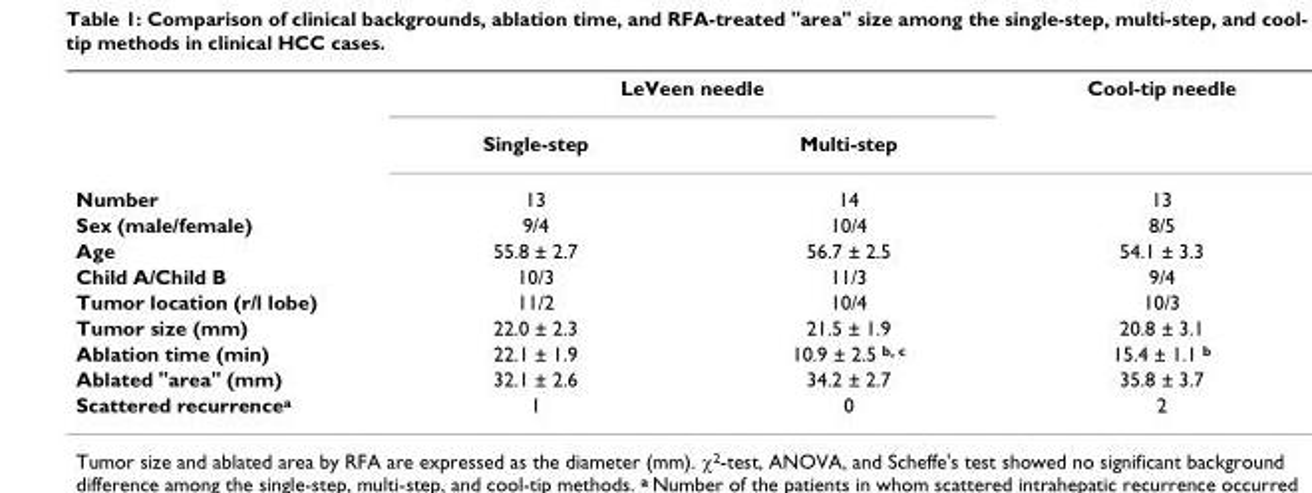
<table><thead><tr><td rowspan="2"></td><td colspan="2">LeVeen needle</td><td rowspan="2">Cool-tip needle</td></tr><tr><td>Single-step</td><td>Multi-step</td></tr></thead><tbody><tr><td>Number</td><td>13</td><td>14</td><td>13</td></tr><tr><td>Sex (male/female)</td><td>9/4</td><td>10/4</td><td>8/5</td></tr><tr><td>Age</td><td>55.8 ± 2.7</td><td>56.7 ± 2.5</td><td>54.1 ± 3.3</td></tr><tr><td>Child A/Child B</td><td>10/3</td><td>11/3</td><td>9/4</td></tr><tr><td>Tumor location (r/l lobe)</td><td>11/2</td><td>10/4</td><td>10/3</td></tr><tr><td>Tumor size (mm)</td><td>22.0 ± 2.3</td><td>21.5 ± 1.9</td><td>20.8 ± 3.1</td></tr><tr><td>Ablation time (min)</td><td>22.1 ± 1.9</td><td>10.9 ± 2.5 <sup>b, c</sup></td><td>15.4 ± 1.1 <sup>b</sup></td></tr><tr><td>Ablated &quot;area&quot; (mm)</td><td>32.1 ± 2.6</td><td>34.2 ± 2.7</td><td>35.8 ± 3.7</td></tr><tr><td>Scattered recurrence<sup>a</sup></td><td>1</td><td>0</td><td>2</td></tr></tbody></table>